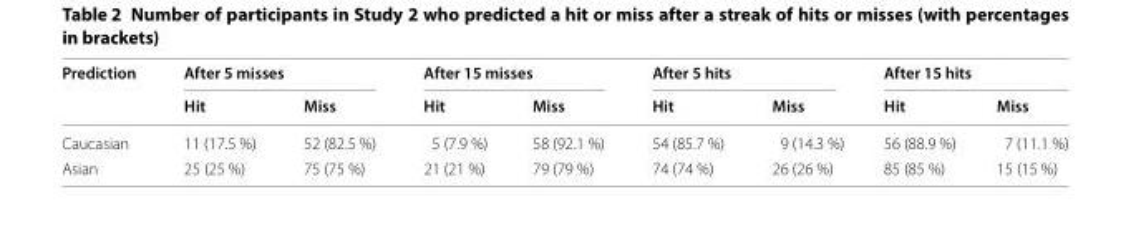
<table><thead><tr><td rowspan="2">Prediction</td><td colspan="2">After 5 misses</td><td colspan="2">After 15 misses</td><td colspan="2">After 5 hits</td><td colspan="2">After 15 hits</td></tr><tr><td>Hit</td><td>Miss</td><td>Hit</td><td>Miss</td><td>Hit</td><td>Miss</td><td>Hit</td><td>Miss</td></tr></thead><tbody><tr><td>Caucasian</td><td>11 (17.5 %)</td><td>52 (82.5 %)</td><td>5 (7.9 %)</td><td>58 (92.1 %)</td><td>54 (85.7 %)</td><td>9 (14.3 %)</td><td>56 (88.9 %)</td><td>7 (11.1 %)</td></tr><tr><td>Asian</td><td>25 (25 %)</td><td>75 (75 %)</td><td>21 (21 %)</td><td>79 (79 %)</td><td>74 (74 %)</td><td>26 (26 %)</td><td>85 (85 %)</td><td>15 (15 %)</td></tr></tbody></table>